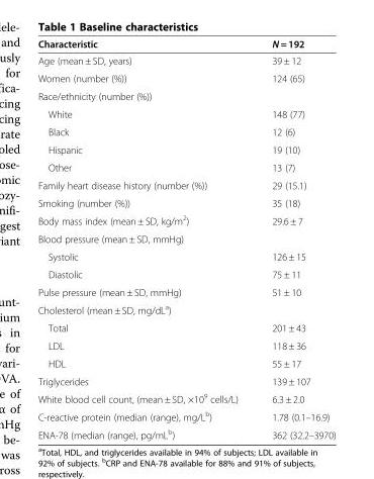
<table><thead><tr><td>Characteristic</td><td>N = 192</td></tr></thead><tbody><tr><td>Age (mean ± SD, years)</td><td>39 ± 12</td></tr><tr><td>Women (number (%))</td><td>124 (65)</td></tr><tr><td colspan="2">Race/ethnicity (number (%))</td></tr><tr><td>White</td><td>148 (77)</td></tr><tr><td>Black</td><td>12 (6)</td></tr><tr><td>Hispanic</td><td>19 (10)</td></tr><tr><td>Other</td><td>13 (7)</td></tr><tr><td>Family heart disease history (number (%))</td><td>29 (15.1)</td></tr><tr><td>Smoking (number (%))</td><td>35 (18)</td></tr><tr><td>Body mass index (mean ± SD, kg/m<sup>2</sup>)</td><td>29.6 ± 7</td></tr><tr><td colspan="2">Blood pressure (mean ± SD, mmHg)</td></tr><tr><td>Systolic</td><td>126 ± 15</td></tr><tr><td>Diastolic</td><td>75 ± 11</td></tr><tr><td>Pulse pressure (mean ± SD, mmHg)</td><td>51 ± 10</td></tr><tr><td colspan="2">Cholesterol (mean ± SD, mg/dL<sup>a</sup>)</td></tr><tr><td>Total</td><td>201 ± 43</td></tr><tr><td>LDL</td><td>118 ± 36</td></tr><tr><td>HDL</td><td>55 ± 17</td></tr><tr><td>Triglycerides</td><td>139 ± 107</td></tr><tr><td>White blood cell count, (mean ± SD, ×10<sup>9</sup> cells/L)</td><td>6.3 ± 2.0</td></tr><tr><td>C-reactive protein (median (range), mg/L<sup>b</sup>)</td><td>1.78 (0.1–16.9)</td></tr><tr><td>ENA-78 (median (range), pg/mL<sup>b</sup>)</td><td>362 (32.2–3970)</td></tr></tbody></table>